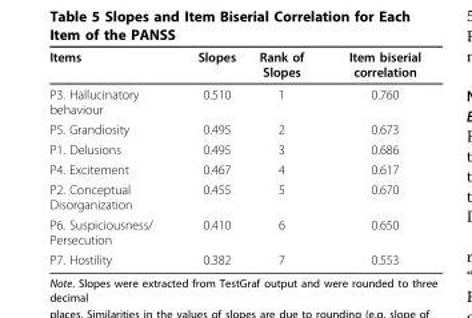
<table><thead><tr><td>Items</td><td>Slopes</td><td>Rank of Slopes</td><td>Item biserial correlation</td></tr></thead><tbody><tr><td>P3. Hallucinatory behaviour</td><td>0.510</td><td>1</td><td>0.760</td></tr><tr><td>P5. Grandiosity</td><td>0.495</td><td>2</td><td>0.673</td></tr><tr><td>P1. Delusions</td><td>0.495</td><td>3</td><td>0.686</td></tr><tr><td>P4. Excitement</td><td>0.467</td><td>4</td><td>0.617</td></tr><tr><td>P2. Conceptual Disorganization</td><td>0.455</td><td>5</td><td>0.670</td></tr><tr><td>P6. Suspiciousness/ Persecution</td><td>0.410</td><td>6</td><td>0.650</td></tr><tr><td>P7. Hostility</td><td>0.382</td><td>7</td><td>0.553</td></tr></tbody></table>